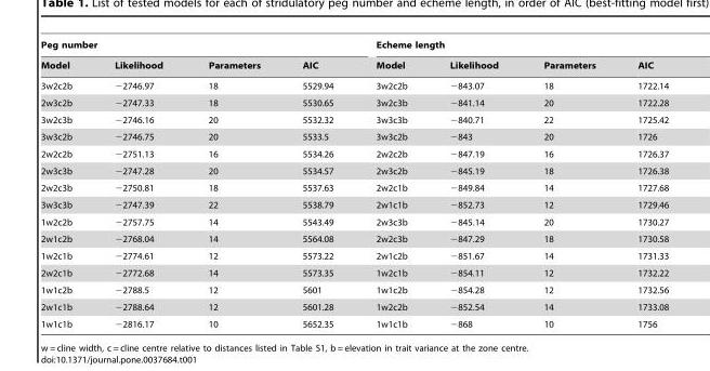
<table><thead><tr><td colspan="4">Peg number</td><td colspan="4">Echeme length</td></tr><tr><td>Model</td><td>Likelihood</td><td>Parameters</td><td>AIC</td><td>Model</td><td>Likelihood</td><td>Parameters</td><td>AIC</td></tr></thead><tbody><tr><td>3w2c2b</td><td>−2746.97</td><td>18</td><td>5529.94</td><td>3w2c2b</td><td>−843.07</td><td>18</td><td>1722.14</td></tr><tr><td>2w3c2b</td><td>−2747.33</td><td>18</td><td>5530.65</td><td>3w2c3b</td><td>−841.14</td><td>20</td><td>1722.28</td></tr><tr><td>3w2c3b</td><td>−2746.16</td><td>20</td><td>5532.32</td><td>3w3c3b</td><td>−840.71</td><td>22</td><td>1725.42</td></tr><tr><td>3w3c2b</td><td>−2746.75</td><td>20</td><td>5533.5</td><td>3w3c2b</td><td>−843</td><td>20</td><td>1726</td></tr><tr><td>2w2c2b</td><td>−2751.13</td><td>16</td><td>5534.26</td><td>2w2c2b</td><td>−847.19</td><td>16</td><td>1726.37</td></tr><tr><td>2w3c3b</td><td>−2747.28</td><td>20</td><td>5534.57</td><td>2w3c2b</td><td>−845.19</td><td>18</td><td>1726.38</td></tr><tr><td>2w2c3b</td><td>−2750.81</td><td>18</td><td>5537.63</td><td>2w2c1b</td><td>−849.84</td><td>14</td><td>1727.68</td></tr><tr><td>3w3c3b</td><td>−2747.39</td><td>22</td><td>5538.79</td><td>2w1c1b</td><td>−852.73</td><td>12</td><td>1729.46</td></tr><tr><td>1w2c2b</td><td>−2757.75</td><td>14</td><td>5543.49</td><td>2w3c3b</td><td>−845.14</td><td>20</td><td>1730.27</td></tr><tr><td>2w1c2b</td><td>−2768.04</td><td>14</td><td>5564.08</td><td>2w2c3b</td><td>−847.29</td><td>18</td><td>1730.58</td></tr><tr><td>1w2c1b</td><td>−2774.61</td><td>12</td><td>5573.22</td><td>2w1c2b</td><td>−851.67</td><td>14</td><td>1731.33</td></tr><tr><td>2w2c1b</td><td>−2772.68</td><td>14</td><td>5573.35</td><td>1w2c1b</td><td>−854.11</td><td>12</td><td>1732.22</td></tr><tr><td>1w1c2b</td><td>−2788.5</td><td>12</td><td>5601</td><td>1w1c2b</td><td>−854.28</td><td>12</td><td>1732.56</td></tr><tr><td>2w1c1b</td><td>−2788.64</td><td>12</td><td>5601.28</td><td>1w2c2b</td><td>−852.54</td><td>14</td><td>1733.08</td></tr><tr><td>1w1c1b</td><td>−2816.17</td><td>10</td><td>5652.35</td><td>1w1c1b</td><td>−868</td><td>10</td><td>1756</td></tr></tbody></table>